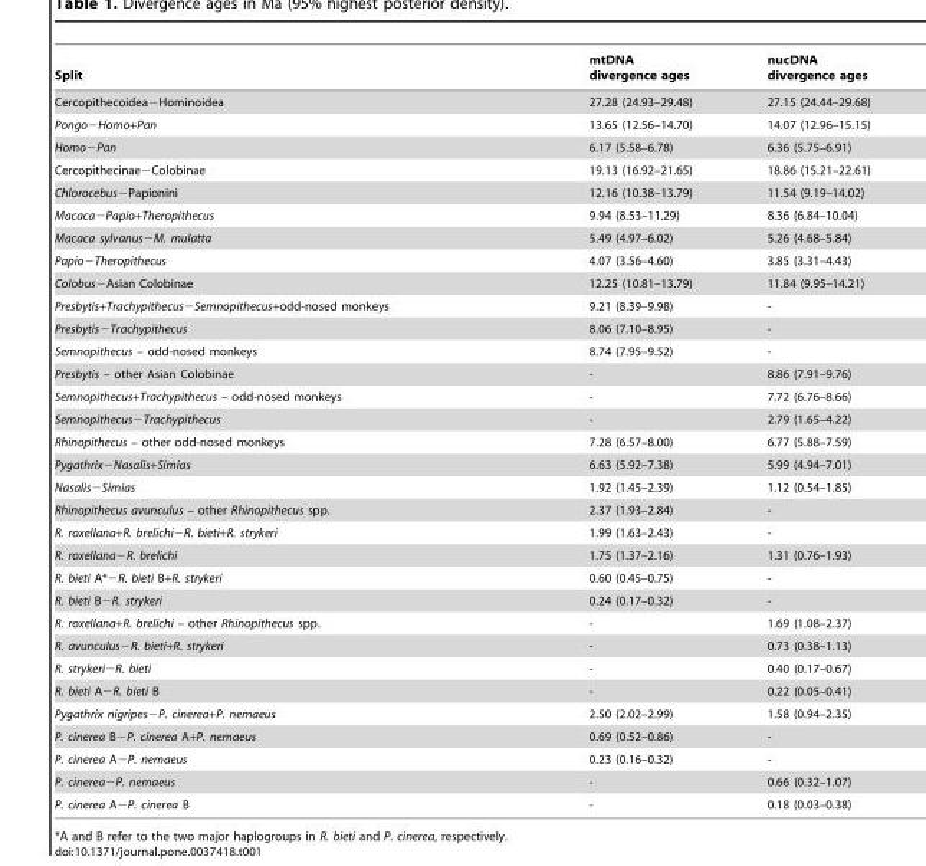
<table><thead><tr><td>Split</td><td>mtDNA divergence ages</td><td>nucDNA divergence ages</td></tr></thead><tbody><tr><td>Cercopithecoidea−Hominoidea</td><td>27.28 (24.93–29.48)</td><td>27.15 (24.44–29.68)</td></tr><tr><td>Pongo−Homo+Pan</td><td>13.65 (12.56–14.70)</td><td>14.07 (12.96–15.15)</td></tr><tr><td>Homo−Pan</td><td>6.17 (5.58–6.78)</td><td>6.36 (5.75–6.91)</td></tr><tr><td>Cercopithecinae−Colobinae</td><td>19.13 (16.92–21.65)</td><td>18.86 (15.21–22.61)</td></tr><tr><td>Chlorocebus−Papionini</td><td>12.16 (10.38–13.79)</td><td>11.54 (9.19–14.02)</td></tr><tr><td>Macaca−Papio+Theropithecus</td><td>9.94 (8.53–11.29)</td><td>8.36 (6.84–10.04)</td></tr><tr><td>Macaca sylvanus−M. mulatta</td><td>5.49 (4.97–6.02)</td><td>5.26 (4.68–5.84)</td></tr><tr><td>Papio−Theropithecus</td><td>4.07 (3.56–4.60)</td><td>3.85 (3.31–4.43)</td></tr><tr><td>Colobus−Asian Colobinae</td><td>12.25 (10.81–13.79)</td><td>11.84 (9.95–14.21)</td></tr><tr><td>Presbytis+Trachypithecus−Semnopithecus+odd-nosed monkeys</td><td>9.21 (8.39–9.98)</td><td>-</td></tr><tr><td>Presbytis−Trachypithecus</td><td>8.06 (7.10–8.95)</td><td>-</td></tr><tr><td>Semnopithecus – odd-nosed monkeys</td><td>8.74 (7.95–9.52)</td><td>-</td></tr><tr><td>Presbytis – other Asian Colobinae</td><td>-</td><td>8.86 (7.91–9.76)</td></tr><tr><td>Semnopithecus+Trachypithecus – odd-nosed monkeys</td><td>-</td><td>7.72 (6.76–8.66)</td></tr><tr><td>Semnopithecus−Trachypithecus</td><td>-</td><td>2.79 (1.65–4.22)</td></tr><tr><td>Rhinopithecus – other odd-nosed monkeys</td><td>7.28 (6.57–8.00)</td><td>6.77 (5.88–7.59)</td></tr><tr><td>Pygathrix−Nasalis+Simias</td><td>6.63 (5.92–7.38)</td><td>5.99 (4.94–7.01)</td></tr><tr><td>Nasalis−Simias</td><td>1.92 (1.45–2.39)</td><td>1.12 (0.54–1.85)</td></tr><tr><td>Rhinopithecus avunculus – other Rhinopithecus spp.</td><td>2.37 (1.93–2.84)</td><td>-</td></tr><tr><td>R. roxellana+R. brelichi−R. bieti+R. strykeri</td><td>1.99 (1.63–2.43)</td><td>-</td></tr><tr><td>R. roxellana−R. brelichi</td><td>1.75 (1.37–2.16)</td><td>1.31 (0.76–1.93)</td></tr><tr><td>R. bieti A*−R. bieti B+R. strykeri</td><td>0.60 (0.45–0.75)</td><td>-</td></tr><tr><td>R. bieti B−R. strykeri</td><td>0.24 (0.17–0.32)</td><td>-</td></tr><tr><td>R. roxellana+R. brelichi – other Rhinopithecus spp.</td><td>-</td><td>1.69 (1.08–2.37)</td></tr><tr><td>R. avunculus−R. bieti+R. strykeri</td><td>-</td><td>0.73 (0.38–1.13)</td></tr><tr><td>R. strykeri−R. bieti</td><td>-</td><td>0.40 (0.17–0.67)</td></tr><tr><td>R. bieti A−R. bieti B</td><td>-</td><td>0.22 (0.05–0.41)</td></tr><tr><td>Pygathrix nigripes−P. cinerea+P. nemaeus</td><td>2.50 (2.02–2.99)</td><td>1.58 (0.94–2.35)</td></tr><tr><td>P. cinerea B−P. cinerea A+P. nemaeus</td><td>0.69 (0.52–0.86)</td><td>-</td></tr><tr><td>P. cinerea A−P. nemaeus</td><td>0.23 (0.16–0.32)</td><td>-</td></tr><tr><td>P. cinerea−P. nemaeus</td><td>-</td><td>0.66 (0.32–1.07)</td></tr><tr><td>P. cinerea A−P. cinerea B</td><td>-</td><td>0.18 (0.03–0.38)</td></tr></tbody></table>